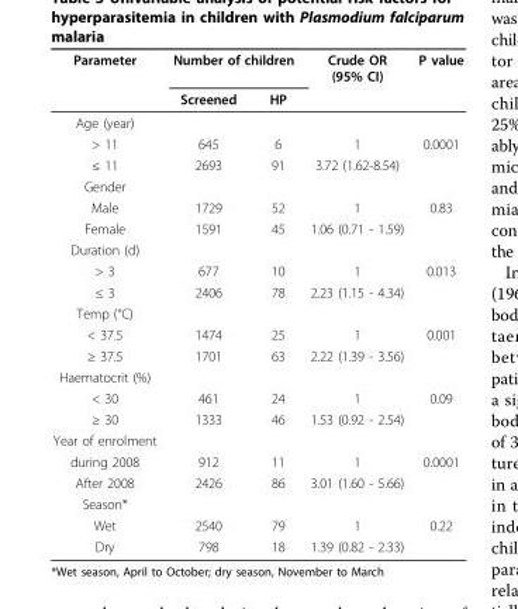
<table><thead><tr><td rowspan="2">Parameter</td><td colspan="2">Number of children</td><td rowspan="2">Crude OR (95% CI)</td><td rowspan="2">P value</td></tr><tr><td>Screened</td><td>HP</td></tr></thead><tbody><tr><td colspan="5">Age (year)</td></tr><tr><td>&gt; 11</td><td>645</td><td>6</td><td>1</td><td>0.0001</td></tr><tr><td>≤ 11</td><td>2693</td><td>91</td><td>3.72 (1.62-8.54)</td><td></td></tr><tr><td colspan="5">Gender</td></tr><tr><td>Male</td><td>1729</td><td>52</td><td>1</td><td>0.83</td></tr><tr><td>Female</td><td>1591</td><td>45</td><td>1.06 (0.71 - 1.59)</td><td></td></tr><tr><td colspan="5">Duration (d)</td></tr><tr><td>&gt; 3</td><td>677</td><td>10</td><td>1</td><td>0.013</td></tr><tr><td>≤ 3</td><td>2406</td><td>78</td><td>2.23 (1.15 - 4.34)</td><td></td></tr><tr><td colspan="5">Temp (°C)</td></tr><tr><td>&lt; 37.5</td><td>1474</td><td>25</td><td>1</td><td>0.001</td></tr><tr><td>≥ 37.5</td><td>1701</td><td>63</td><td>2.22 (1.39 - 3.56)</td><td></td></tr><tr><td colspan="5">Haematocrit (%)</td></tr><tr><td>&lt; 30</td><td>461</td><td>24</td><td>1</td><td>0.09</td></tr><tr><td>≥ 30</td><td>1333</td><td>46</td><td>1.53 (0.92 - 2.54)</td><td></td></tr><tr><td colspan="5">Year of enrolment</td></tr><tr><td>during 2008</td><td>912</td><td>11</td><td>1</td><td>0.0001</td></tr><tr><td>After 2008</td><td>2426</td><td>86</td><td>3.01 (1.60 - 5.66)</td><td></td></tr><tr><td colspan="5">Season*</td></tr><tr><td>Wet</td><td>2540</td><td>79</td><td>1</td><td>0.22</td></tr><tr><td>Dry</td><td>798</td><td>18</td><td>1.39 (0.82 - 2.33)</td><td></td></tr></tbody></table>